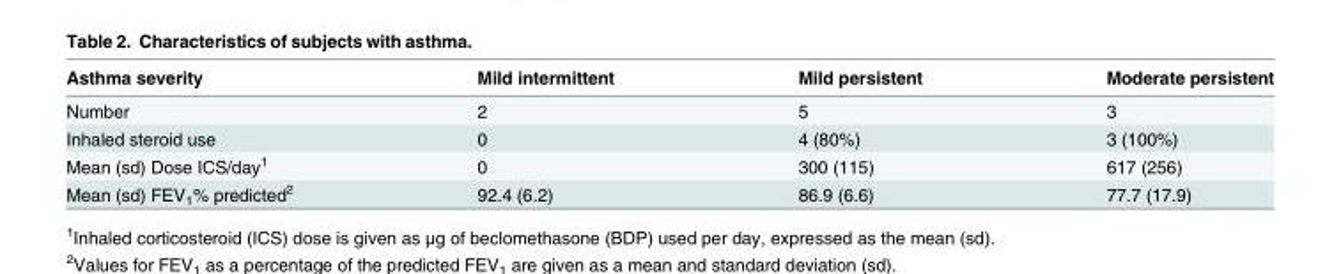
<table><thead><tr><td>Asthma severity</td><td>Mild intermittent</td><td>Mild persistent</td><td>Moderate persistent</td></tr></thead><tbody><tr><td>Number</td><td>2</td><td>5</td><td>3</td></tr><tr><td>Inhaled steroid use</td><td>0</td><td>4 (80%)</td><td>3 (100%)</td></tr><tr><td>Mean (sd) Dose ICS/day<sup>1</sup></td><td>0</td><td>300 (115)</td><td>617 (256)</td></tr><tr><td>Mean (sd) FEV<sub>1</sub>% predicted<sup>2</sup></td><td>92.4 (6.2)</td><td>86.9 (6.6)</td><td>77.7 (17.9)</td></tr></tbody></table>